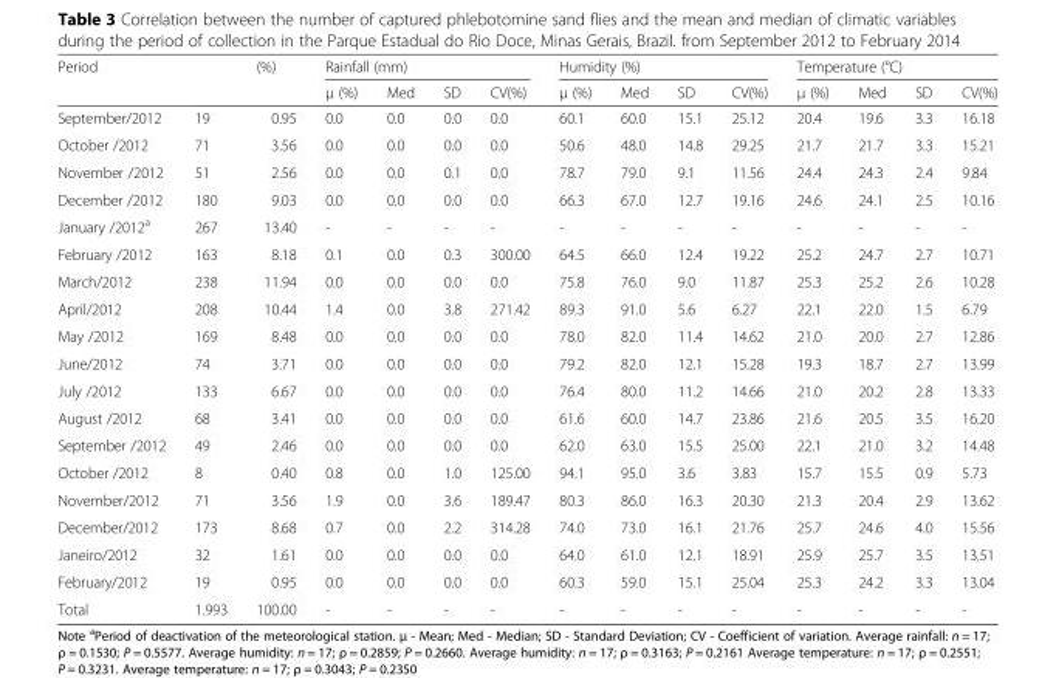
<table><thead><tr><td rowspan="2">Period</td><td rowspan="2"></td><td rowspan="2">(%)</td><td colspan="4">Rainfall (mm)</td><td colspan="4">Humidity (%)</td><td colspan="4">Temperature (°C)</td></tr><tr><td>μ (%)</td><td>Med</td><td>SD</td><td>CV(%)</td><td>μ (%)</td><td>Med</td><td>SD</td><td>CV(%)</td><td>μ (%)</td><td>Med</td><td>SD</td><td>CV(%)</td></tr></thead><tbody><tr><td>September/2012</td><td>19</td><td>0.95</td><td>0.0</td><td>0.0</td><td>0.0</td><td>0.0</td><td>60.1</td><td>60.0</td><td>15.1</td><td>25.12</td><td>20.4</td><td>19.6</td><td>3.3</td><td>16.18</td></tr><tr><td>October /2012</td><td>71</td><td>3.56</td><td>0.0</td><td>0.0</td><td>0.0</td><td>0.0</td><td>50.6</td><td>48.0</td><td>14.8</td><td>29.25</td><td>21.7</td><td>21.7</td><td>3.3</td><td>15.21</td></tr><tr><td>November /2012</td><td>51</td><td>2.56</td><td>0.0</td><td>0.0</td><td>0.1</td><td>0.0</td><td>78.7</td><td>79.0</td><td>9.1</td><td>11.56</td><td>24.4</td><td>24.3</td><td>2.4</td><td>9.84</td></tr><tr><td>December /2012</td><td>180</td><td>9.03</td><td>0.0</td><td>0.0</td><td>0.0</td><td>0.0</td><td>66.3</td><td>67.0</td><td>12.7</td><td>19.16</td><td>24.6</td><td>24.1</td><td>2.5</td><td>10.16</td></tr><tr><td>January /2012<sup>a</sup></td><td>267</td><td>13.40</td><td>-</td><td>-</td><td>-</td><td>-</td><td>-</td><td>-</td><td>-</td><td>-</td><td>-</td><td>-</td><td>-</td><td>-</td></tr><tr><td>February /2012</td><td>163</td><td>8.18</td><td>0.1</td><td>0.0</td><td>0.3</td><td>300.00</td><td>64.5</td><td>66.0</td><td>12.4</td><td>19.22</td><td>25.2</td><td>24.7</td><td>2.7</td><td>10.71</td></tr><tr><td>March/2012</td><td>238</td><td>11.94</td><td>0.0</td><td>0.0</td><td>0.0</td><td>0.0</td><td>75.8</td><td>76.0</td><td>9.0</td><td>11.87</td><td>25.3</td><td>25.2</td><td>2.6</td><td>10.28</td></tr><tr><td>April/2012</td><td>208</td><td>10.44</td><td>1.4</td><td>0.0</td><td>3.8</td><td>271.42</td><td>89.3</td><td>91.0</td><td>5.6</td><td>6.27</td><td>22.1</td><td>22.0</td><td>1.5</td><td>6.79</td></tr><tr><td>May /2012</td><td>169</td><td>8.48</td><td>0.0</td><td>0.0</td><td>0.0</td><td>0.0</td><td>78.0</td><td>82.0</td><td>11.4</td><td>14.62</td><td>21.0</td><td>20.0</td><td>2.7</td><td>12.86</td></tr><tr><td>June/2012</td><td>74</td><td>3.71</td><td>0.0</td><td>0.0</td><td>0.0</td><td>0.0</td><td>79.2</td><td>82.0</td><td>12.1</td><td>15.28</td><td>19.3</td><td>18.7</td><td>2.7</td><td>13.99</td></tr><tr><td>July /2012</td><td>133</td><td>6.67</td><td>0.0</td><td>0.0</td><td>0.0</td><td>0.0</td><td>76.4</td><td>80.0</td><td>11.2</td><td>14.66</td><td>21.0</td><td>20.2</td><td>2.8</td><td>13.33</td></tr><tr><td>August /2012</td><td>68</td><td>3.41</td><td>0.0</td><td>0.0</td><td>0.0</td><td>0.0</td><td>61.6</td><td>60.0</td><td>14.7</td><td>23.86</td><td>21.6</td><td>20.5</td><td>3.5</td><td>16.20</td></tr><tr><td>September /2012</td><td>49</td><td>2.46</td><td>0.0</td><td>0.0</td><td>0.0</td><td>0.0</td><td>62.0</td><td>63.0</td><td>15.5</td><td>25.00</td><td>22.1</td><td>21.0</td><td>3.2</td><td>14.48</td></tr><tr><td>October /2012</td><td>8</td><td>0.40</td><td>0.8</td><td>0.0</td><td>1.0</td><td>125.00</td><td>94.1</td><td>95.0</td><td>3.6</td><td>3.83</td><td>15.7</td><td>15.5</td><td>0.9</td><td>5.73</td></tr><tr><td>November/2012</td><td>71</td><td>3.56</td><td>1.9</td><td>0.0</td><td>3.6</td><td>189.47</td><td>80.3</td><td>86.0</td><td>16.3</td><td>20.30</td><td>21.3</td><td>20.4</td><td>2.9</td><td>13.62</td></tr><tr><td>December/2012</td><td>173</td><td>8.68</td><td>0.7</td><td>0.0</td><td>2.2</td><td>314.28</td><td>74.0</td><td>73.0</td><td>16.1</td><td>21.76</td><td>25.7</td><td>24.6</td><td>4.0</td><td>15.56</td></tr><tr><td>Janeiro/2012</td><td>32</td><td>1.61</td><td>0.0</td><td>0.0</td><td>0.0</td><td>0.0</td><td>64.0</td><td>61.0</td><td>12.1</td><td>18.91</td><td>25.9</td><td>25.7</td><td>3.5</td><td>13.51</td></tr><tr><td>February/2012</td><td>19</td><td>0.95</td><td>0.0</td><td>0.0</td><td>0.0</td><td>0.0</td><td>60.3</td><td>59.0</td><td>15.1</td><td>25.04</td><td>25.3</td><td>24.2</td><td>3.3</td><td>13.04</td></tr><tr><td>Total</td><td>1.993</td><td>100.00</td><td>-</td><td>-</td><td>-</td><td>-</td><td>-</td><td>-</td><td>-</td><td>-</td><td>-</td><td>-</td><td>-</td><td>-</td></tr></tbody></table>